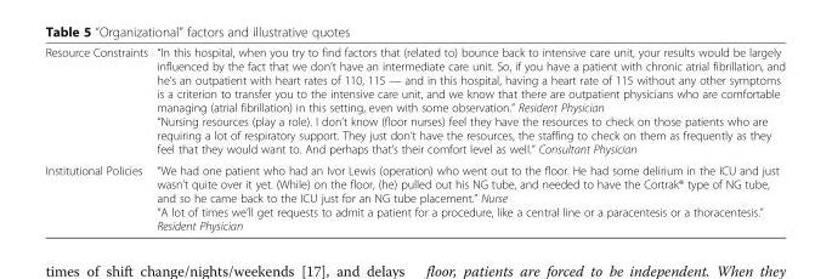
<table><tbody><tr><td>Resource Constraints</td><td>“In this hospital, when you try to find factors that (related to) bounce back to intensive care unit, your results would be largely influenced by the fact that we don’t have an intermediate care unit. So, if you have a patient with chronic atrial fibrillation, and he’s an outpatient with heart rates of 110, 115 — and in this hospital, having a heart rate of 115 without any other symptoms is a criterion to transfer you to the intensive care unit, and we know that there are outpatient physicians who are comfortable managing (atrial fibrillation) in this setting, even with some observation.” Resident Physician “Nursing resources (play a role). I don’t know (floor nurses) feel they have the resources to check on those patients who are requiring a lot of respiratory support. They just don’t have the resources, the staffing to check on them as frequently as they feel that they would want to. And perhaps that’s their comfort level as well.” Consultant Physician</td></tr><tr><td>Institutional Policies</td><td>“We had one patient who had an Ivor Lewis (operation) who went out to the floor. He had some delirium in the ICU and just wasn’t quite over it yet. (While) on the floor, (he) pulled out his NG tube, and needed to have the Cortrak® type of NG tube, and so he came back to the ICU just for an NG tube placement.” Nurse “A lot of times we’ll get requests to admit a patient for a procedure, like a central line or a paracentesis or a thoracentesis.” Resident Physician</td></tr></tbody></table>